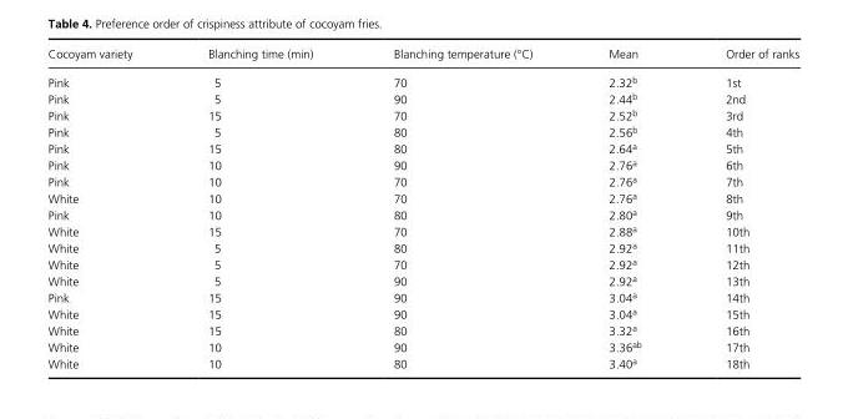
<table><thead><tr><td>Cocoyam variety</td><td>Blanching time (min)</td><td>Blanching temperature (°C)</td><td>Mean</td><td>Order of ranks</td></tr></thead><tbody><tr><td>Pink</td><td>5</td><td>70</td><td>2.32<sup>b</sup></td><td>1st</td></tr><tr><td>Pink</td><td>5</td><td>90</td><td>2.44<sup>b</sup></td><td>2nd</td></tr><tr><td>Pink</td><td>15</td><td>70</td><td>2.52<sup>b</sup></td><td>3rd</td></tr><tr><td>Pink</td><td>5</td><td>80</td><td>2.56<sup>b</sup></td><td>4th</td></tr><tr><td>Pink</td><td>15</td><td>80</td><td>2.64<sup>a</sup></td><td>5th</td></tr><tr><td>Pink</td><td>10</td><td>90</td><td>2.76<sup>a</sup></td><td>6th</td></tr><tr><td>Pink</td><td>10</td><td>70</td><td>2.76<sup>a</sup></td><td>7th</td></tr><tr><td>White</td><td>10</td><td>70</td><td>2.76<sup>a</sup></td><td>8th</td></tr><tr><td>Pink</td><td>10</td><td>80</td><td>2.80<sup>a</sup></td><td>9th</td></tr><tr><td>White</td><td>15</td><td>70</td><td>2.88<sup>a</sup></td><td>10th</td></tr><tr><td>White</td><td>5</td><td>80</td><td>2.92<sup>a</sup></td><td>11th</td></tr><tr><td>White</td><td>5</td><td>70</td><td>2.92<sup>a</sup></td><td>12th</td></tr><tr><td>White</td><td>5</td><td>90</td><td>2.92<sup>a</sup></td><td>13th</td></tr><tr><td>Pink</td><td>15</td><td>90</td><td>3.04<sup>a</sup></td><td>14th</td></tr><tr><td>White</td><td>15</td><td>90</td><td>3.04<sup>a</sup></td><td>15th</td></tr><tr><td>White</td><td>15</td><td>80</td><td>3.32<sup>a</sup></td><td>16th</td></tr><tr><td>White</td><td>10</td><td>90</td><td>3.36<sup>ab</sup></td><td>17th</td></tr><tr><td>White</td><td>10</td><td>80</td><td>3.40<sup>a</sup></td><td>18th</td></tr></tbody></table>